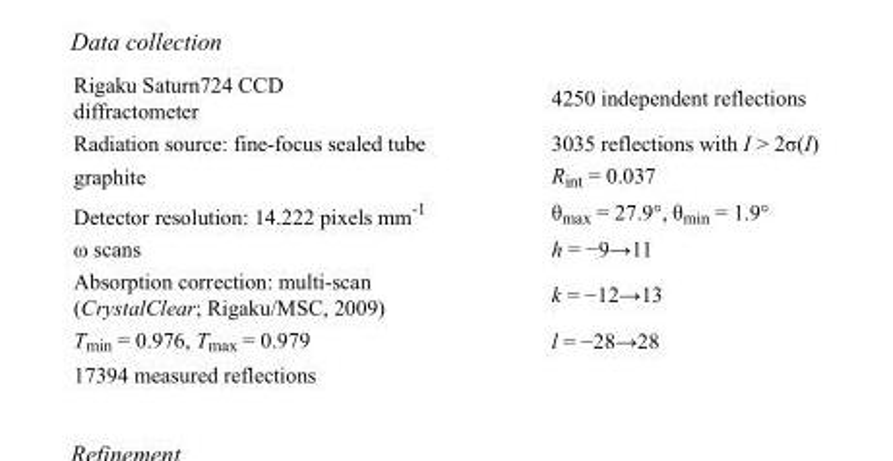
<table><tbody><tr><td>Rigaku Saturn724 CCD diffractometer</td><td>4250 independent reflections</td></tr><tr><td>Radiation source: fine-focus sealed tube</td><td>3035 reflections with I &gt; 2σ(I)</td></tr><tr><td>graphite</td><td>R<sub>int</sub> = 0.037</td></tr><tr><td>Detector resolution: 14.222 pixels mm<sup>-1</sup></td><td>θ<sub>max</sub> = 27.9°, θ<sub>min</sub> = 1.9°</td></tr><tr><td>ω scans</td><td>h = −9→11</td></tr><tr><td>Absorption correction: multi-scan (CrystalClear; Rigaku/MSC, 2009)</td><td>k = −12→13</td></tr><tr><td>T<sub>min</sub> = 0.976, T<sub>max</sub> = 0.979</td><td>l = −28→28</td></tr><tr><td>17394 measured reflections</td><td></td></tr></tbody></table>